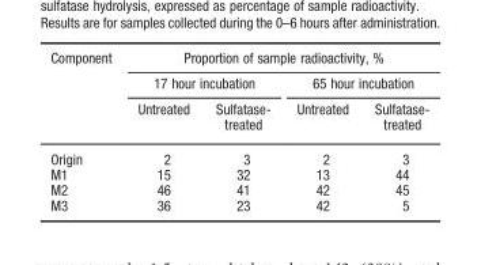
<table><thead><tr><td rowspan="3">Component</td><td colspan="4">Proportion of sample radioactivity, %</td></tr><tr><td colspan="2">17 hour incubation</td><td colspan="2">65 hour incubation</td></tr><tr><td>Untreated</td><td>Sulfatase- treated</td><td>Untreated</td><td>Sulfatase- treated</td></tr></thead><tbody><tr><td>Origin</td><td>2</td><td>3</td><td>2</td><td>3</td></tr><tr><td>M1</td><td>15</td><td>32</td><td>13</td><td>44</td></tr><tr><td>M2</td><td>46</td><td>41</td><td>42</td><td>45</td></tr><tr><td>M3</td><td>36</td><td>23</td><td>42</td><td>5</td></tr></tbody></table>